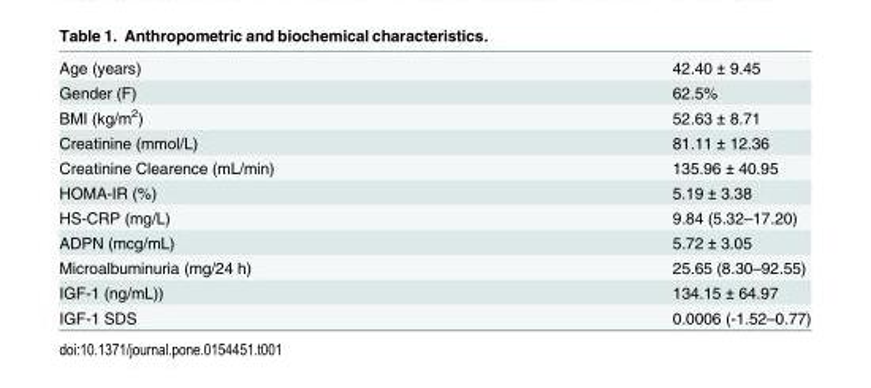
<table><tbody><tr><td>Age (years)</td><td>42.40 ± 9.45</td></tr><tr><td>Gender (F)</td><td>62.5%</td></tr><tr><td>BMI (kg/m<sup>2</sup>)</td><td>52.63 ± 8.71</td></tr><tr><td>Creatinine (mmol/L)</td><td>81.11 ± 12.36</td></tr><tr><td>Creatinine Clearence (mL/min)</td><td>135.96 ± 40.95</td></tr><tr><td>HOMA-IR (%)</td><td>5.19 ± 3.38</td></tr><tr><td>HS-CRP (mg/L)</td><td>9.84 (5.32–17.20)</td></tr><tr><td>ADPN (mcg/mL)</td><td>5.72 ± 3.05</td></tr><tr><td>Microalbuminuria (mg/24 h)</td><td>25.65 (8.30–92.55)</td></tr><tr><td>IGF-1 (ng/mL))</td><td>134.15 ± 64.97</td></tr><tr><td>IGF-1 SDS</td><td>0.0006 (-1.52–0.77)</td></tr></tbody></table>